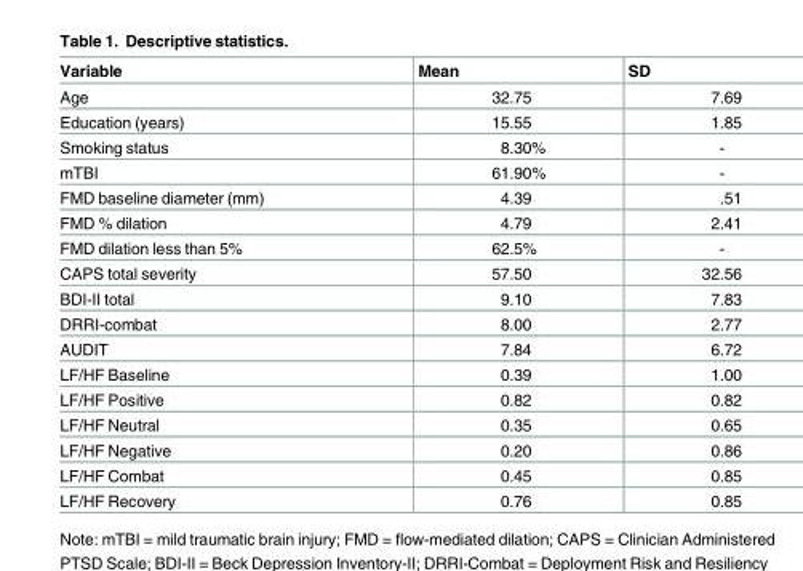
<table><thead><tr><td>Variable</td><td>Mean</td><td>SD</td></tr></thead><tbody><tr><td>Age</td><td>32.75</td><td>7.69</td></tr><tr><td>Education (years)</td><td>15.55</td><td>1.85</td></tr><tr><td>Smoking status</td><td>8.30%</td><td>-</td></tr><tr><td>mTBI</td><td>61.90%</td><td>-</td></tr><tr><td>FMD baseline diameter (mm)</td><td>4.39</td><td>.51</td></tr><tr><td>FMD % dilation</td><td>4.79</td><td>2.41</td></tr><tr><td>FMD dilation less than 5%</td><td>62.5%</td><td>-</td></tr><tr><td>CAPS total severity</td><td>57.50</td><td>32.56</td></tr><tr><td>BDI-II total</td><td>9.10</td><td>7.83</td></tr><tr><td>DRRI-combat</td><td>8.00</td><td>2.77</td></tr><tr><td>AUDIT</td><td>7.84</td><td>6.72</td></tr><tr><td>LF/HF Baseline</td><td>0.39</td><td>1.00</td></tr><tr><td>LF/HF Positive</td><td>0.82</td><td>0.82</td></tr><tr><td>LF/HF Neutral</td><td>0.35</td><td>0.65</td></tr><tr><td>LF/HF Negative</td><td>0.20</td><td>0.86</td></tr><tr><td>LF/HF Combat</td><td>0.45</td><td>0.85</td></tr><tr><td>LF/HF Recovery</td><td>0.76</td><td>0.85</td></tr></tbody></table>